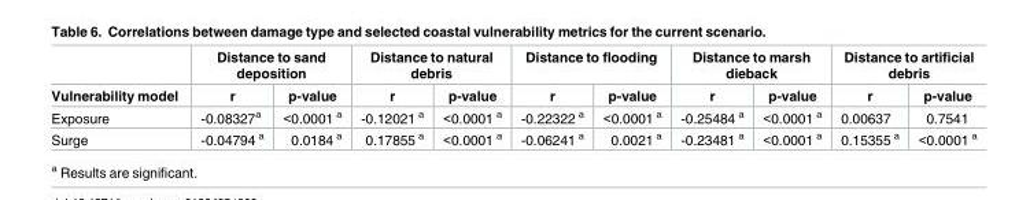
<table><thead><tr><td rowspan="2">Vulnerability model</td><td colspan="2">Distance to sand deposition</td><td colspan="2">Distance to natural debris</td><td colspan="2">Distance to flooding</td><td colspan="2">Distance to marsh dieback</td><td colspan="2">Distance to artificial debris</td></tr><tr><td>r</td><td>p-value</td><td>r</td><td>p-value</td><td>r</td><td>p-value</td><td>r</td><td>p-value</td><td>r</td><td>p-value</td></tr></thead><tbody><tr><td>Exposure</td><td>-0.08327<sup>a</sup></td><td>&lt;0.0001 <sup>a</sup></td><td>-0.12021 <sup>a</sup></td><td>&lt;0.0001 <sup>a</sup></td><td>-0.22322 <sup>a</sup></td><td>&lt;0.0001 <sup>a</sup></td><td>-0.25484 <sup>a</sup></td><td>&lt;0.0001 <sup>a</sup></td><td>0.00637</td><td>0.7541</td></tr><tr><td>Surge</td><td>-0.04794 <sup>a</sup></td><td>0.0184 <sup>a</sup></td><td>0.17855 <sup>a</sup></td><td>&lt;0.0001 <sup>a</sup></td><td>-0.06241 <sup>a</sup></td><td>0.0021 <sup>a</sup></td><td>-0.23481 <sup>a</sup></td><td>&lt;0.0001 <sup>a</sup></td><td>0.15355 <sup>a</sup></td><td>&lt;0.0001 <sup>a</sup></td></tr></tbody></table>